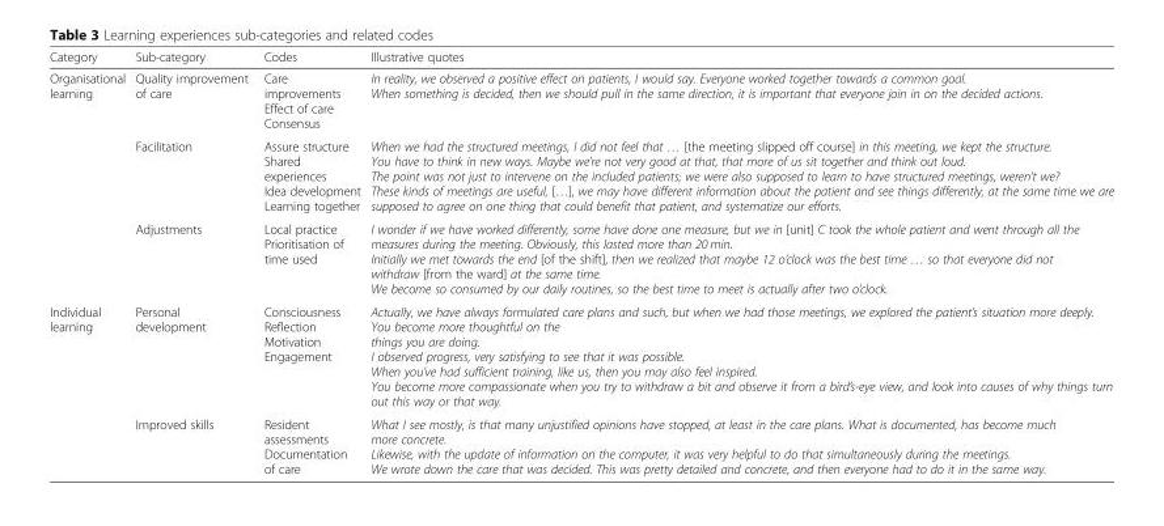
<table><thead><tr><td>Category</td><td>Sub-category</td><td>Codes</td><td>Illustrative quotes</td></tr></thead><tbody><tr><td rowspan="3">Organisational learning</td><td>Quality improvement of care</td><td>Care improvements Effect of care Consensus</td><td>In reality, we observed a positive effect on patients, I would say. Everyone worked together towards a common goal. When something is decided, then we should pull in the same direction, it is important that everyone join in on the decided actions.</td></tr><tr><td>Facilitation</td><td>Assure structure Shared experiences Idea development Learning together</td><td>When we had the structured meetings, I did not feel that … [the meeting slipped off course] in this meeting, we kept the structure. You have to think in new ways. Maybe we’re not very good at that, that more of us sit together and think out loud. The point was not just to intervene on the included patients; we were also supposed to learn to have structured meetings, weren’t we? These kinds of meetings are useful, […], we may have different information about the patient and see things differently, at the same time we are supposed to agree on one thing that could benefit that patient, and systematize our efforts.</td></tr><tr><td>Adjustments</td><td>Local practice Prioritisation of time used</td><td>I wonder if we have worked differently, some have done one measure, but we in [unit] C took the whole patient and went through all the measures during the meeting. Obviously, this lasted more than 20 min. Initially we met towards the end [of the shift], then we realized that maybe 12 o’clock was the best time … so that everyone did not withdraw [from the ward] at the same time. We become so consumed by our daily routines, so the best time to meet is actually after two o’clock.</td></tr><tr><td rowspan="2">Individual learning</td><td>Personal development</td><td>Consciousness Reflection Motivation Engagement</td><td>Actually, we have always formulated care plans and such, but when we had those meetings, we explored the patient’s situation more deeply. You become more thoughtful on the things you are doing. I observed progress, very satisfying to see that it was possible. When you’ve had sufficient training, like us, then you may also feel inspired. You become more compassionate when you try to withdraw a bit and observe it from a bird’s-eye view, and look into causes of why things turn out this way or that way.</td></tr><tr><td>Improved skills</td><td>Resident assessments Documentation of care</td><td>What I see mostly, is that many unjustified opinions have stopped, at least in the care plans. What is documented, has become much more concrete. Likewise, with the update of information on the computer, it was very helpful to do that simultaneously during the meetings. We wrote down the care that was decided. This was pretty detailed and concrete, and then everyone had to do it in the same way.</td></tr></tbody></table>